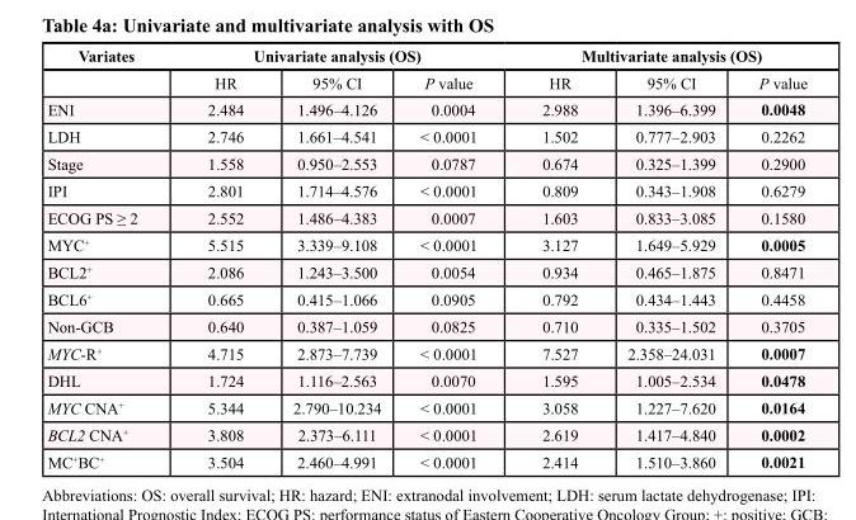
<table><thead><tr><td rowspan="2">Variates</td><td colspan="3">Univariate analysis (OS)</td><td colspan="3">Multivariate analysis (OS)</td></tr><tr><td>HR</td><td>95% CI</td><td>P value</td><td>HR</td><td>95% CI</td><td>P value</td></tr></thead><tbody><tr><td>ENI</td><td>2.484</td><td>1.496–4.126</td><td>0.0004</td><td>2.988</td><td>1.396–6.399</td><td>0.0048</td></tr><tr><td>LDH</td><td>2.746</td><td>1.661–4.541</td><td>&lt; 0.0001</td><td>1.502</td><td>0.777–2.903</td><td>0.2262</td></tr><tr><td>Stage</td><td>1.558</td><td>0.950–2.553</td><td>0.0787</td><td>0.674</td><td>0.325–1.399</td><td>0.2900</td></tr><tr><td>IPI</td><td>2.801</td><td>1.714–4.576</td><td>&lt; 0.0001</td><td>0.809</td><td>0.343–1.908</td><td>0.6279</td></tr><tr><td>ECOG PS ≥ 2</td><td>2.552</td><td>1.486–4.383</td><td>0.0007</td><td>1.603</td><td>0.833–3.085</td><td>0.1580</td></tr><tr><td>MYC<sup>+</sup></td><td>5.515</td><td>3.339–9.108</td><td>&lt; 0.0001</td><td>3.127</td><td>1.649–5.929</td><td>0.0005</td></tr><tr><td>BCL2<sup>+</sup></td><td>2.086</td><td>1.243–3.500</td><td>0.0054</td><td>0.934</td><td>0.465–1.875</td><td>0.8471</td></tr><tr><td>BCL6<sup>+</sup></td><td>0.665</td><td>0.415–1.066</td><td>0.0905</td><td>0.792</td><td>0.434–1.443</td><td>0.4458</td></tr><tr><td>Non-GCB</td><td>0.640</td><td>0.387–1.059</td><td>0.0825</td><td>0.710</td><td>0.335–1.502</td><td>0.3705</td></tr><tr><td>MYC-R<sup>+</sup></td><td>4.715</td><td>2.873–7.739</td><td>&lt; 0.0001</td><td>7.527</td><td>2.358–24.031</td><td>0.0007</td></tr><tr><td>DHL</td><td>1.724</td><td>1.116–2.563</td><td>0.0070</td><td>1.595</td><td>1.005–2.534</td><td>0.0478</td></tr><tr><td>MYC CNA<sup>+</sup></td><td>5.344</td><td>2.790–10.234</td><td>&lt; 0.0001</td><td>3.058</td><td>1.227–7.620</td><td>0.0164</td></tr><tr><td>BCL2 CNA<sup>+</sup></td><td>3.808</td><td>2.373–6.111</td><td>&lt; 0.0001</td><td>2.619</td><td>1.417–4.840</td><td>0.0002</td></tr><tr><td>MC<sup>+</sup>BC<sup>+</sup></td><td>3.504</td><td>2.460–4.991</td><td>&lt; 0.0001</td><td>2.414</td><td>1.510–3.860</td><td>0.0021</td></tr></tbody></table>